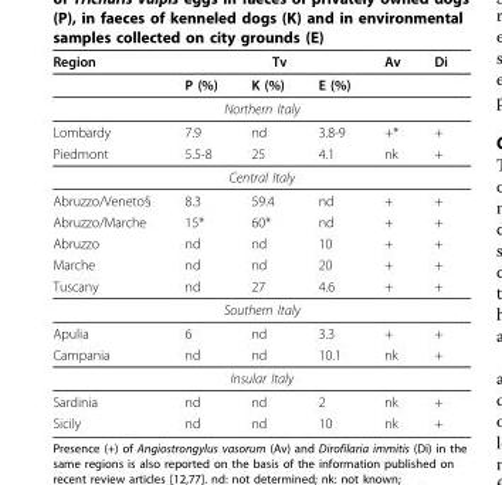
<table><thead><tr><td rowspan="2">Region</td><td colspan="3">Tv</td><td rowspan="2">Av</td><td rowspan="2">Di</td></tr><tr><td>P (%)</td><td>K (%)</td><td>E (%)</td></tr></thead><tbody><tr><td colspan="6">Northern Italy</td></tr><tr><td>Lombardy</td><td>7.9</td><td>nd</td><td>3.8-9</td><td>+*</td><td>+</td></tr><tr><td>Piedmont</td><td>5.5-8</td><td>25</td><td>4.1</td><td>nk</td><td>+</td></tr><tr><td colspan="6">Central Italy</td></tr><tr><td>Abruzzo/Veneto§</td><td>8.3</td><td>59.4</td><td>nd</td><td>+</td><td>+</td></tr><tr><td>Abruzzo/Marche</td><td>15*</td><td>60*</td><td>nd</td><td>+</td><td>+</td></tr><tr><td>Abruzzo</td><td>nd</td><td>nd</td><td>10</td><td>+</td><td>+</td></tr><tr><td>Marche</td><td>nd</td><td>nd</td><td>20</td><td>+</td><td>+</td></tr><tr><td>Tuscany</td><td>nd</td><td>27</td><td>4.6</td><td>+</td><td>+</td></tr><tr><td colspan="6">Southern Italy</td></tr><tr><td>Apulia</td><td>6</td><td>nd</td><td>3.3</td><td>+</td><td>+</td></tr><tr><td>Campania</td><td>nd</td><td>nd</td><td>10.1</td><td>nk</td><td>+</td></tr><tr><td colspan="6">Insular Italy</td></tr><tr><td>Sardinia</td><td>nd</td><td>nd</td><td>2</td><td>nk</td><td>+</td></tr><tr><td>Sicily</td><td>nd</td><td>nd</td><td>10</td><td>nk</td><td>+</td></tr></tbody></table>